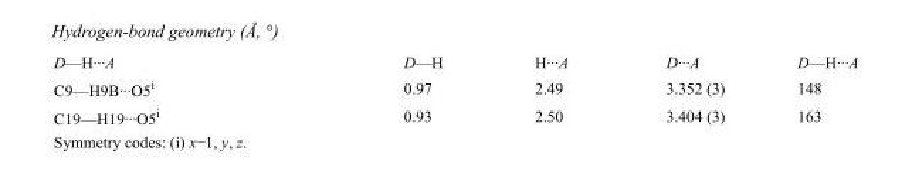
<table><tbody><tr><td>D—H···A</td><td>D—H</td><td>H···A</td><td>D···A</td><td>D—H···A</td></tr><tr><td>C9—H9B···O5<sup>i</sup></td><td>0.97</td><td>2.49</td><td>3.352 (3)</td><td>148</td></tr><tr><td>C19—H19···O5<sup>i</sup></td><td>0.93</td><td>2.50</td><td>3.404 (3)</td><td>163</td></tr></tbody></table>